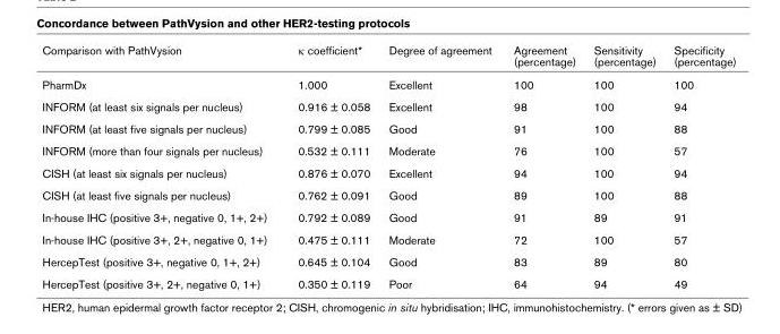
<table><thead><tr><td>Comparison with PathVysion</td><td>κ coefficient*</td><td>Degree of agreement</td><td>Agreement (percentage)</td><td>Sensitivity (percentage)</td><td>Specificity (percentage)</td></tr></thead><tbody><tr><td>PharmDx</td><td>1.000</td><td>Excellent</td><td>100</td><td>100</td><td>100</td></tr><tr><td>INFORM (at least six signals per nucleus)</td><td>0.916 ± 0.058</td><td>Excellent</td><td>98</td><td>100</td><td>94</td></tr><tr><td>INFORM (at least five signals per nucleus)</td><td>0.799 ± 0.085</td><td>Good</td><td>91</td><td>100</td><td>88</td></tr><tr><td>INFORM (more than four signals per nucleus)</td><td>0.532 ± 0.111</td><td>Moderate</td><td>76</td><td>100</td><td>57</td></tr><tr><td>CISH (at least six signals per nucleus)</td><td>0.876 ± 0.070</td><td>Excellent</td><td>94</td><td>100</td><td>94</td></tr><tr><td>CISH (at least five signals per nucleus)</td><td>0.762 ± 0.091</td><td>Good</td><td>89</td><td>100</td><td>88</td></tr><tr><td>In-house IHC (positive 3+, negative 0, 1+, 2+)</td><td>0.792 ± 0.089</td><td>Good</td><td>91</td><td>89</td><td>91</td></tr><tr><td>In-house IHC (positive 3+, 2+, negative 0, 1+)</td><td>0.475 ± 0.111</td><td>Moderate</td><td>72</td><td>100</td><td>57</td></tr><tr><td>HercepTest (positive 3+, negative 0, 1+, 2+)</td><td>0.645 ± 0.104</td><td>Good</td><td>83</td><td>89</td><td>80</td></tr><tr><td>HercepTest (positive 3+, 2+, negative 0, 1+)</td><td>0.350 ± 0.119</td><td>Poor</td><td>64</td><td>94</td><td>49</td></tr></tbody></table>